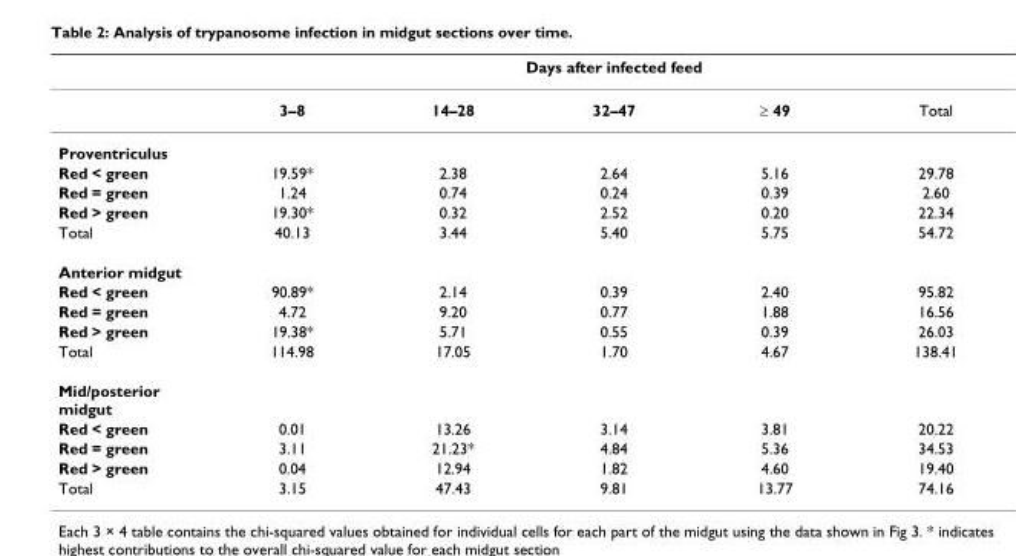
<table><thead><tr><td rowspan="2"></td><td colspan="5">Days after infected feed</td></tr><tr><td>3–8</td><td>14–28</td><td>32–47</td><td>≥ 49</td><td>Total</td></tr></thead><tbody><tr><td colspan="6">Proventriculus</td></tr><tr><td>Red &lt; green</td><td>19.59*</td><td>2.38</td><td>2.64</td><td>5.16</td><td>29.78</td></tr><tr><td>Red = green</td><td>1.24</td><td>0.74</td><td>0.24</td><td>0.39</td><td>2.60</td></tr><tr><td>Red &gt; green</td><td>19.30*</td><td>0.32</td><td>2.52</td><td>0.20</td><td>22.34</td></tr><tr><td>Total</td><td>40.13</td><td>3.44</td><td>5.40</td><td>5.75</td><td>54.72</td></tr><tr><td colspan="6">Anterior midgut</td></tr><tr><td>Red &lt; green</td><td>90.89*</td><td>2.14</td><td>0.39</td><td>2.40</td><td>95.82</td></tr><tr><td>Red = green</td><td>4.72</td><td>9.20</td><td>0.77</td><td>1.88</td><td>16.56</td></tr><tr><td>Red &gt; green</td><td>19.38*</td><td>5.71</td><td>0.55</td><td>0.39</td><td>26.03</td></tr><tr><td>Total</td><td>114.98</td><td>17.05</td><td>1.70</td><td>4.67</td><td>138.41</td></tr><tr><td colspan="6">Mid/posterior midgut</td></tr><tr><td>Red &lt; green</td><td>0.01</td><td>13.26</td><td>3.14</td><td>3.81</td><td>20.22</td></tr><tr><td>Red = green</td><td>3.11</td><td>21.23*</td><td>4.84</td><td>5.36</td><td>34.53</td></tr><tr><td>Red &gt; green</td><td>0.04</td><td>12.94</td><td>1.82</td><td>4.60</td><td>19.40</td></tr><tr><td>Total</td><td>3.15</td><td>47.43</td><td>9.81</td><td>13.77</td><td>74.16</td></tr></tbody></table>